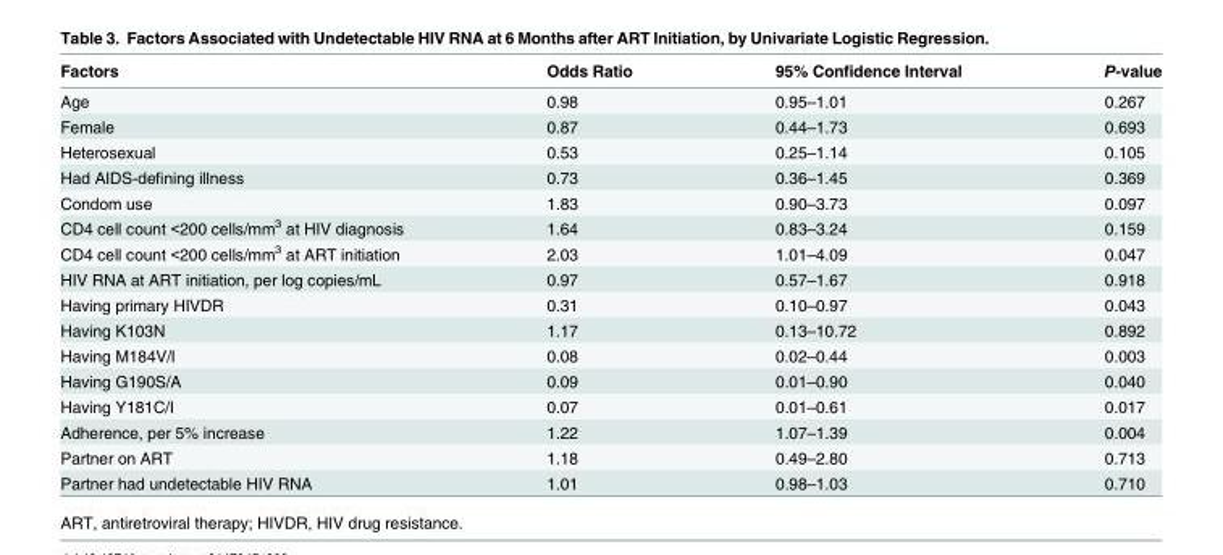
<table><thead><tr><td>Factors</td><td>Odds Ratio</td><td>95% Confidence Interval</td><td>P-value</td></tr></thead><tbody><tr><td>Age</td><td>0.98</td><td>0.95–1.01</td><td>0.267</td></tr><tr><td>Female</td><td>0.87</td><td>0.44–1.73</td><td>0.693</td></tr><tr><td>Heterosexual</td><td>0.53</td><td>0.25–1.14</td><td>0.105</td></tr><tr><td>Had AIDS-defining illness</td><td>0.73</td><td>0.36–1.45</td><td>0.369</td></tr><tr><td>Condom use</td><td>1.83</td><td>0.90–3.73</td><td>0.097</td></tr><tr><td>CD4 cell count &lt;200 cells/mm<sup>3</sup> at HIV diagnosis</td><td>1.64</td><td>0.83–3.24</td><td>0.159</td></tr><tr><td>CD4 cell count &lt;200 cells/mm<sup>3</sup> at ART initiation</td><td>2.03</td><td>1.01–4.09</td><td>0.047</td></tr><tr><td>HIV RNA at ART initiation, per log copies/mL</td><td>0.97</td><td>0.57–1.67</td><td>0.918</td></tr><tr><td>Having primary HIVDR</td><td>0.31</td><td>0.10–0.97</td><td>0.043</td></tr><tr><td>Having K103N</td><td>1.17</td><td>0.13–10.72</td><td>0.892</td></tr><tr><td>Having M184V/I</td><td>0.08</td><td>0.02–0.44</td><td>0.003</td></tr><tr><td>Having G190S/A</td><td>0.09</td><td>0.01–0.90</td><td>0.040</td></tr><tr><td>Having Y181C/I</td><td>0.07</td><td>0.01–0.61</td><td>0.017</td></tr><tr><td>Adherence, per 5% increase</td><td>1.22</td><td>1.07–1.39</td><td>0.004</td></tr><tr><td>Partner on ART</td><td>1.18</td><td>0.49–2.80</td><td>0.713</td></tr><tr><td>Partner had undetectable HIV RNA</td><td>1.01</td><td>0.98–1.03</td><td>0.710</td></tr></tbody></table>